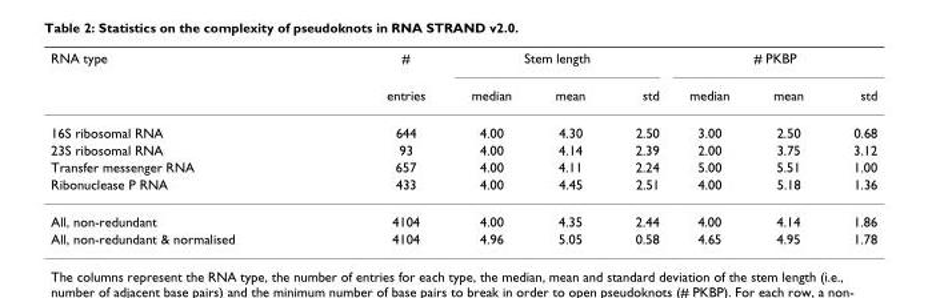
<table><thead><tr><td rowspan="2">RNA type</td><td rowspan="2"># entries</td><td colspan="3">Stem length</td><td colspan="3"># PKBP</td></tr><tr><td>median</td><td>mean</td><td>std</td><td>median</td><td>mean</td><td>std</td></tr></thead><tbody><tr><td>16S ribosomal RNA</td><td>644</td><td>4.00</td><td>4.30</td><td>2.50</td><td>3.00</td><td>2.50</td><td>0.68</td></tr><tr><td>23S ribosomal RNA</td><td>93</td><td>4.00</td><td>4.14</td><td>2.39</td><td>2.00</td><td>3.75</td><td>3.12</td></tr><tr><td>Transfer messenger RNA</td><td>657</td><td>4.00</td><td>4.11</td><td>2.24</td><td>5.00</td><td>5.51</td><td>1.00</td></tr><tr><td>Ribonuclease P RNA</td><td>433</td><td>4.00</td><td>4.45</td><td>2.51</td><td>4.00</td><td>5.18</td><td>1.36</td></tr><tr><td>All, non-redundant</td><td>4104</td><td>4.00</td><td>4.35</td><td>2.44</td><td>4.00</td><td>4.14</td><td>1.86</td></tr><tr><td>All, non-redundant &amp; normalised</td><td>4104</td><td>4.96</td><td>5.05</td><td>0.58</td><td>4.65</td><td>4.95</td><td>1.78</td></tr></tbody></table>